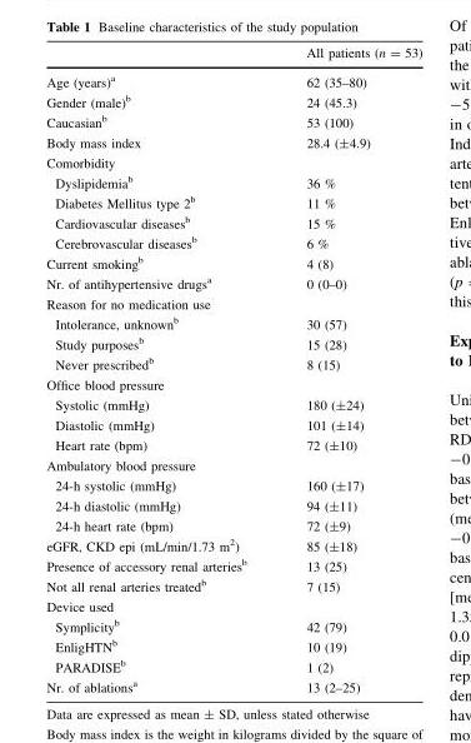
<table><thead><tr><td></td><td>All patients (n = 53)</td></tr></thead><tbody><tr><td>Age (years)<sup>a</sup></td><td>62 (35–80)</td></tr><tr><td>Gender (male)<sup>b</sup></td><td>24 (45.3)</td></tr><tr><td>Caucasian<sup>b</sup></td><td>53 (100)</td></tr><tr><td>Body mass index</td><td>28.4 (±4.9)</td></tr><tr><td colspan="2">Comorbidity</td></tr><tr><td>Dyslipidemia<sup>b</sup></td><td>36 %</td></tr><tr><td>Diabetes Mellitus type 2<sup>b</sup></td><td>11 %</td></tr><tr><td>Cardiovascular diseases<sup>b</sup></td><td>15 %</td></tr><tr><td>Cerebrovascular diseases<sup>b</sup></td><td>6 %</td></tr><tr><td>Current smoking<sup>b</sup></td><td>4 (8)</td></tr><tr><td>Nr. of antihypertensive drugs<sup>a</sup></td><td>0 (0–0)</td></tr><tr><td colspan="2">Reason for no medication use</td></tr><tr><td>Intolerance, unknown<sup>b</sup></td><td>30 (57)</td></tr><tr><td>Study purposes<sup>b</sup></td><td>15 (28)</td></tr><tr><td>Never prescribed<sup>b</sup></td><td>8 (15)</td></tr><tr><td colspan="2">Office blood pressure</td></tr><tr><td>Systolic (mmHg)</td><td>180 (±24)</td></tr><tr><td>Diastolic (mmHg)</td><td>101 (±14)</td></tr><tr><td>Heart rate (bpm)</td><td>72 (±10)</td></tr><tr><td colspan="2">Ambulatory blood pressure</td></tr><tr><td>24-h systolic (mmHg)</td><td>160 (±17)</td></tr><tr><td>24-h diastolic (mmHg)</td><td>94 (±11)</td></tr><tr><td>24-h heart rate (bpm)</td><td>72 (±9)</td></tr><tr><td>eGFR, CKD epi (mL/min/1.73 m<sup>2</sup>)</td><td>85 (±18)</td></tr><tr><td>Presence of accessory renal arteries<sup>b</sup></td><td>13 (25)</td></tr><tr><td>Not all renal arteries treated<sup>b</sup></td><td>7 (15)</td></tr><tr><td colspan="2">Device used</td></tr><tr><td>Symplicity<sup>b</sup></td><td>42 (79)</td></tr><tr><td>EnligHTN<sup>b</sup></td><td>10 (19)</td></tr><tr><td>PARADISE<sup>b</sup></td><td>1 (2)</td></tr><tr><td>Nr. of ablations<sup>a</sup></td><td>13 (2–25)</td></tr></tbody></table>